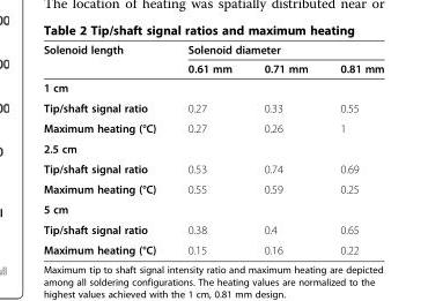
<table><thead><tr><td rowspan="2">Solenoid length</td><td colspan="3">Solenoid diameter</td></tr><tr><td>0.61 mm</td><td>0.71 mm</td><td>0.81 mm</td></tr></thead><tbody><tr><td colspan="4">1 cm</td></tr><tr><td>Tip/shaft signal ratio</td><td>0.27</td><td>0.33</td><td>0.55</td></tr><tr><td>Maximum heating (°C)</td><td>0.27</td><td>0.26</td><td>1</td></tr><tr><td colspan="4">2.5 cm</td></tr><tr><td>Tip/shaft signal ratio</td><td>0.53</td><td>0.74</td><td>0.69</td></tr><tr><td>Maximum heating (°C)</td><td>0.55</td><td>0.59</td><td>0.25</td></tr><tr><td colspan="4">5 cm</td></tr><tr><td>Tip/shaft signal ratio</td><td>0.38</td><td>0.4</td><td>0.65</td></tr><tr><td>Maximum heating (°C)</td><td>0.15</td><td>0.16</td><td>0.22</td></tr></tbody></table>